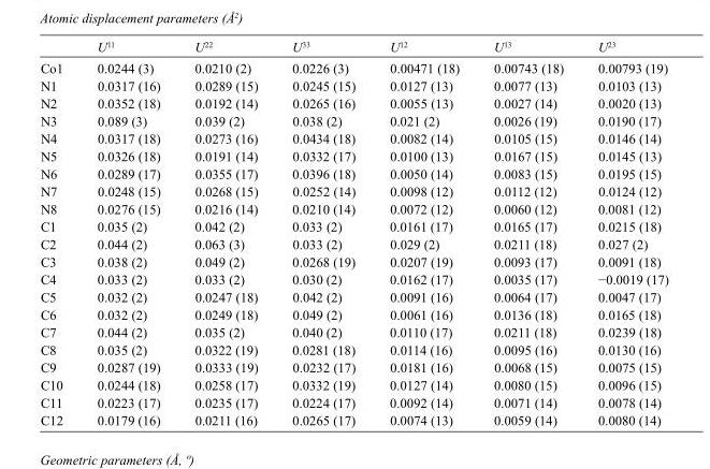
<table><thead><tr><td></td><td>U<sup>11</sup></td><td>U<sup>22</sup></td><td>U<sup>33</sup></td><td>U<sup>12</sup></td><td>U<sup>13</sup></td><td>U<sup>23</sup></td></tr></thead><tbody><tr><td>Co1</td><td>0.0244 (3)</td><td>0.0210 (2)</td><td>0.0226 (3)</td><td>0.00471 (18)</td><td>0.00743 (18)</td><td>0.00793 (19)</td></tr><tr><td>N1</td><td>0.0317 (16)</td><td>0.0289 (15)</td><td>0.0245 (15)</td><td>0.0127 (13)</td><td>0.0077 (13)</td><td>0.0103 (13)</td></tr><tr><td>N2</td><td>0.0352 (18)</td><td>0.0192 (14)</td><td>0.0265 (16)</td><td>0.0055 (13)</td><td>0.0027 (14)</td><td>0.0020 (13)</td></tr><tr><td>N3</td><td>0.089 (3)</td><td>0.039 (2)</td><td>0.038 (2)</td><td>0.021 (2)</td><td>0.0026 (19)</td><td>0.0190 (17)</td></tr><tr><td>N4</td><td>0.0317 (18)</td><td>0.0273 (16)</td><td>0.0434 (18)</td><td>0.0082 (14)</td><td>0.0105 (15)</td><td>0.0146 (14)</td></tr><tr><td>N5</td><td>0.0326 (18)</td><td>0.0191 (14)</td><td>0.0332 (17)</td><td>0.0100 (13)</td><td>0.0167 (15)</td><td>0.0145 (13)</td></tr><tr><td>N6</td><td>0.0289 (17)</td><td>0.0355 (17)</td><td>0.0396 (18)</td><td>0.0050 (14)</td><td>0.0083 (15)</td><td>0.0195 (15)</td></tr><tr><td>N7</td><td>0.0248 (15)</td><td>0.0268 (15)</td><td>0.0252 (14)</td><td>0.0098 (12)</td><td>0.0112 (12)</td><td>0.0124 (12)</td></tr><tr><td>N8</td><td>0.0276 (15)</td><td>0.0216 (14)</td><td>0.0210 (14)</td><td>0.0072 (12)</td><td>0.0060 (12)</td><td>0.0081 (12)</td></tr><tr><td>C1</td><td>0.035 (2)</td><td>0.042 (2)</td><td>0.033 (2)</td><td>0.0161 (17)</td><td>0.0165 (17)</td><td>0.0215 (18)</td></tr><tr><td>C2</td><td>0.044 (2)</td><td>0.063 (3)</td><td>0.033 (2)</td><td>0.029 (2)</td><td>0.0211 (18)</td><td>0.027 (2)</td></tr><tr><td>C3</td><td>0.038 (2)</td><td>0.049 (2)</td><td>0.0268 (19)</td><td>0.0207 (19)</td><td>0.0093 (17)</td><td>0.0091 (18)</td></tr><tr><td>C4</td><td>0.033 (2)</td><td>0.033 (2)</td><td>0.030 (2)</td><td>0.0162 (17)</td><td>0.0035 (17)</td><td>−0.0019 (17)</td></tr><tr><td>C5</td><td>0.032 (2)</td><td>0.0247 (18)</td><td>0.042 (2)</td><td>0.0091 (16)</td><td>0.0064 (17)</td><td>0.0047 (17)</td></tr><tr><td>C6</td><td>0.032 (2)</td><td>0.0249 (18)</td><td>0.049 (2)</td><td>0.0061 (16)</td><td>0.0136 (18)</td><td>0.0165 (18)</td></tr><tr><td>C7</td><td>0.044 (2)</td><td>0.035 (2)</td><td>0.040 (2)</td><td>0.0110 (17)</td><td>0.0211 (18)</td><td>0.0239 (18)</td></tr><tr><td>C8</td><td>0.035 (2)</td><td>0.0322 (19)</td><td>0.0281 (18)</td><td>0.0114 (16)</td><td>0.0095 (16)</td><td>0.0130 (16)</td></tr><tr><td>C9</td><td>0.0287 (19)</td><td>0.0333 (19)</td><td>0.0232 (17)</td><td>0.0181 (16)</td><td>0.0068 (15)</td><td>0.0075 (15)</td></tr><tr><td>C10</td><td>0.0244 (18)</td><td>0.0258 (17)</td><td>0.0332 (19)</td><td>0.0127 (14)</td><td>0.0080 (15)</td><td>0.0096 (15)</td></tr><tr><td>C11</td><td>0.0223 (17)</td><td>0.0235 (17)</td><td>0.0224 (17)</td><td>0.0092 (14)</td><td>0.0071 (14)</td><td>0.0078 (14)</td></tr><tr><td>C12</td><td>0.0179 (16)</td><td>0.0211 (16)</td><td>0.0265 (17)</td><td>0.0074 (13)</td><td>0.0059 (14)</td><td>0.0080 (14)</td></tr></tbody></table>